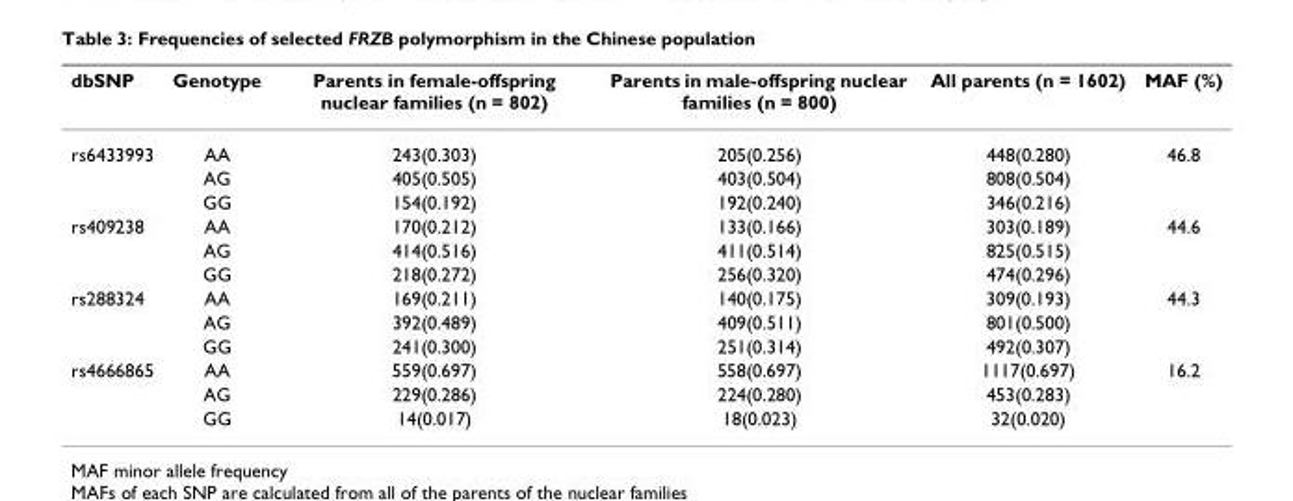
<table><thead><tr><td>dbSNP</td><td>Genotype</td><td>Parents in female-offspring nuclear families (n = 802)</td><td>Parents in male-offspring nuclear families (n = 800)</td><td>All parents (n = 1602)</td><td>MAF (%)</td></tr></thead><tbody><tr><td rowspan="3">rs6433993</td><td>AA</td><td>243(0.303)</td><td>205(0.256)</td><td>448(0.280)</td><td>46.8</td></tr><tr><td>AG</td><td>405(0.505)</td><td>403(0.504)</td><td>808(0.504)</td><td></td></tr><tr><td>GG</td><td>154(0.192)</td><td>192(0.240)</td><td>346(0.216)</td><td></td></tr><tr><td rowspan="3">rs409238</td><td>AA</td><td>170(0.212)</td><td>133(0.166)</td><td>303(0.189)</td><td>44.6</td></tr><tr><td>AG</td><td>414(0.516)</td><td>411(0.514)</td><td>825(0.515)</td><td></td></tr><tr><td>GG</td><td>218(0.272)</td><td>256(0.320)</td><td>474(0.296)</td><td></td></tr><tr><td rowspan="3">rs288324</td><td>AA</td><td>169(0.211)</td><td>140(0.175)</td><td>309(0.193)</td><td>44.3</td></tr><tr><td>AG</td><td>392(0.489)</td><td>409(0.511)</td><td>801(0.500)</td><td></td></tr><tr><td>GG</td><td>241(0.300)</td><td>251(0.314)</td><td>492(0.307)</td><td></td></tr><tr><td rowspan="3">rs4666865</td><td>AA</td><td>559(0.697)</td><td>558(0.697)</td><td>1117(0.697)</td><td>16.2</td></tr><tr><td>AG</td><td>229(0.286)</td><td>224(0.280)</td><td>453(0.283)</td><td></td></tr><tr><td>GG</td><td>14(0.017)</td><td>18(0.023)</td><td>32(0.020)</td><td></td></tr></tbody></table>